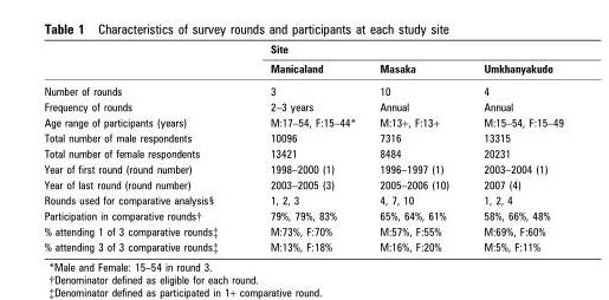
<table><thead><tr><td rowspan="2"></td><td colspan="3">Site</td></tr><tr><td>Manicaland</td><td>Masaka</td><td>Umkhanyakude</td></tr></thead><tbody><tr><td>Number of rounds</td><td>3</td><td>10</td><td>4</td></tr><tr><td>Frequency of rounds</td><td>2–3 years</td><td>Annual</td><td>Annual</td></tr><tr><td>Age range of participants (years)</td><td>M:17–54, F:15–44*</td><td>M:13+, F:13+</td><td>M:15–54, F:15–49</td></tr><tr><td>Total number of male respondents</td><td>10096</td><td>7316</td><td>13315</td></tr><tr><td>Total number of female respondents</td><td>13421</td><td>8484</td><td>20231</td></tr><tr><td>Year of first round (round number)</td><td>1998–2000 (1)</td><td>1996–1997 (1)</td><td>2003–2004 (1)</td></tr><tr><td>Year of last round (round number)</td><td>2003–2005 (3)</td><td>2005–2006 (10)</td><td>2007 (4)</td></tr><tr><td>Rounds used for comparative analysis§</td><td>1, 2, 3</td><td>4, 7, 10</td><td>1, 2, 4</td></tr><tr><td>Participation in comparative rounds†</td><td>79%, 79%, 83%</td><td>65%, 64%, 61%</td><td>58%, 66%, 48%</td></tr><tr><td>% attending 1 of 3 comparative rounds‡</td><td>M:73%, F:70%</td><td>M:57%, F:55%</td><td>M:69%, F:60%</td></tr><tr><td>% attending 3 of 3 comparative rounds‡</td><td>M:13%, F:18%</td><td>M:16%, F:20%</td><td>M:5%, F:11%</td></tr></tbody></table>